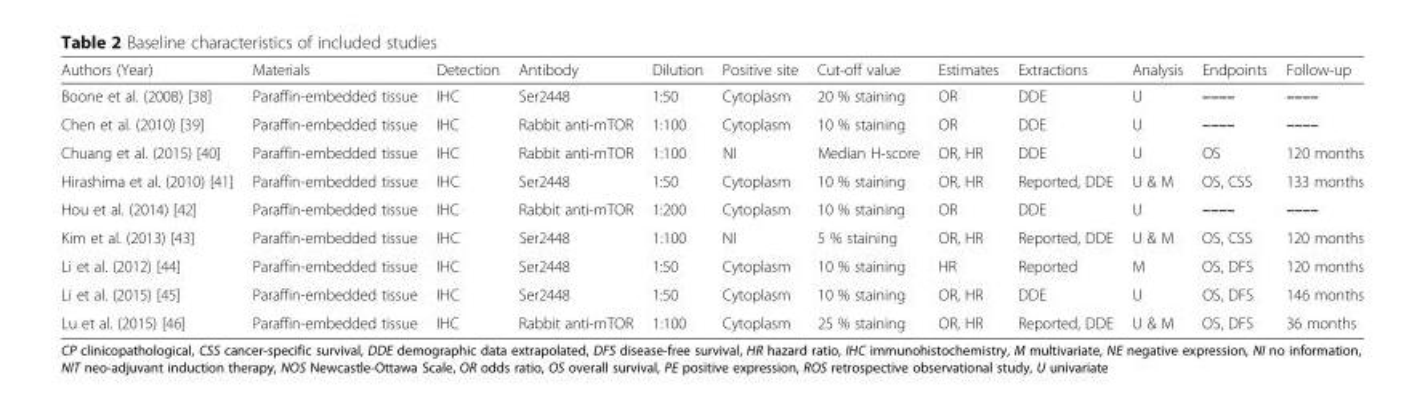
<table><thead><tr><td>Authors (Year)</td><td>Materials</td><td>Detection</td><td>Antibody</td><td>Dilution</td><td>Positive site</td><td>Cut-off value</td><td>Estimates</td><td>Extractions</td><td>Analysis</td><td>Endpoints</td><td>Follow-up</td></tr></thead><tbody><tr><td>Boone et al. (2008) [38]</td><td>Paraffin-embedded tissue</td><td>IHC</td><td>Ser2448</td><td>1:50</td><td>Cytoplasm</td><td>20 % staining</td><td>OR</td><td>DDE</td><td>U</td><td>––––</td><td>––––</td></tr><tr><td>Chen et al. (2010) [39]</td><td>Paraffin-embedded tissue</td><td>IHC</td><td>Rabbit anti-mTOR</td><td>1:100</td><td>Cytoplasm</td><td>10 % staining</td><td>OR</td><td>DDE</td><td>U</td><td>––––</td><td>––––</td></tr><tr><td>Chuang et al. (2015) [40]</td><td>Paraffin-embedded tissue</td><td>IHC</td><td>Rabbit anti-mTOR</td><td>1:100</td><td>NI</td><td>Median H-score</td><td>OR, HR</td><td>DDE</td><td>U</td><td>OS</td><td>120 months</td></tr><tr><td>Hirashima et al. (2010) [41]</td><td>Paraffin-embedded tissue</td><td>IHC</td><td>Ser2448</td><td>1:50</td><td>Cytoplasm</td><td>10 % staining</td><td>OR, HR</td><td>Reported, DDE</td><td>U &amp; M</td><td>OS, CSS</td><td>133 months</td></tr><tr><td>Hou et al. (2014) [42]</td><td>Paraffin-embedded tissue</td><td>IHC</td><td>Rabbit anti-mTOR</td><td>1:200</td><td>Cytoplasm</td><td>10 % staining</td><td>OR</td><td>DDE</td><td>U</td><td>––––</td><td>––––</td></tr><tr><td>Kim et al. (2013) [43]</td><td>Paraffin-embedded tissue</td><td>IHC</td><td>Ser2448</td><td>1:100</td><td>NI</td><td>5 % staining</td><td>OR, HR</td><td>Reported, DDE</td><td>U &amp; M</td><td>OS, CSS</td><td>120 months</td></tr><tr><td>Li et al. (2012) [44]</td><td>Paraffin-embedded tissue</td><td>IHC</td><td>Ser2448</td><td>1:50</td><td>Cytoplasm</td><td>10 % staining</td><td>HR</td><td>Reported</td><td>M</td><td>OS, DFS</td><td>120 months</td></tr><tr><td>Li et al. (2015) [45]</td><td>Paraffin-embedded tissue</td><td>IHC</td><td>Ser2448</td><td>1:50</td><td>Cytoplasm</td><td>10 % staining</td><td>OR, HR</td><td>DDE</td><td>U</td><td>OS, DFS</td><td>146 months</td></tr><tr><td>Lu et al. (2015) [46]</td><td>Paraffin-embedded tissue</td><td>IHC</td><td>Rabbit anti-mTOR</td><td>1:100</td><td>Cytoplasm</td><td>25 % staining</td><td>OR, HR</td><td>Reported, DDE</td><td>U &amp; M</td><td>OS, DFS</td><td>36 months</td></tr></tbody></table>